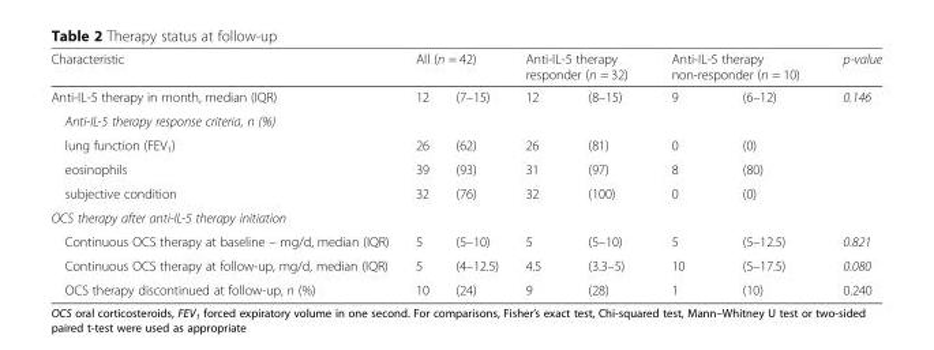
<table><thead><tr><td rowspan="2">Characteristic Anti-IL-5 therapy in month, median (IQR)</td><td colspan="2">All (n = 42)</td><td colspan="2">Anti-IL-5 therapy responder (n = 32)</td><td colspan="2">Anti-IL-5 therapy non-responder (n = 10)</td><td rowspan="2">p-value 0.146</td></tr><tr><td>12</td><td>(7–15)</td><td>12</td><td>(8–15)</td><td>9</td><td>(6–12)</td></tr></thead><tbody><tr><td colspan="8">Anti-IL-5 therapy response criteria, n (%)</td></tr><tr><td>lung function (FEV<sub>1</sub>)</td><td>26</td><td>(62)</td><td>26</td><td>(81)</td><td>0</td><td>(0)</td><td></td></tr><tr><td>eosinophils</td><td>39</td><td>(93)</td><td>31</td><td>(97)</td><td>8</td><td>(80)</td><td></td></tr><tr><td>subjective condition</td><td>32</td><td>(76)</td><td>32</td><td>(100)</td><td>0</td><td>(0)</td><td></td></tr><tr><td colspan="8">OCS therapy after anti-IL-5 therapy initiation</td></tr><tr><td>Continuous OCS therapy at baseline – mg/d, median (IQR)</td><td>5</td><td>(5–10)</td><td>5</td><td>(5–10)</td><td>5</td><td>(5–12.5)</td><td>0.821</td></tr><tr><td>Continuous OCS therapy at follow-up, mg/d, median (IQR)</td><td>5</td><td>(4–12.5)</td><td>4.5</td><td>(3.3–5)</td><td>10</td><td>(5–17.5)</td><td>0.080</td></tr><tr><td>OCS therapy discontinued at follow-up, n (%)</td><td>10</td><td>(24)</td><td>9</td><td>(28)</td><td>1</td><td>(10)</td><td>0.240</td></tr></tbody></table>